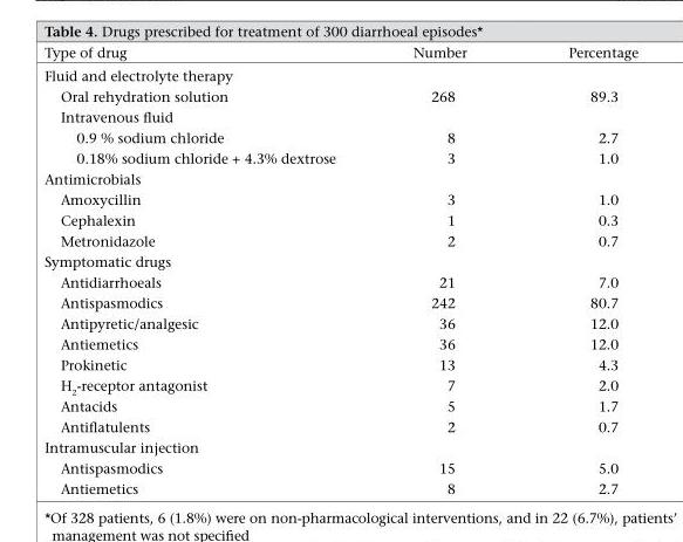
<table><thead><tr><td>Type of drug</td><td>Number</td><td>Percentage</td></tr></thead><tbody><tr><td colspan="3">Fluid and electrolyte therapy</td></tr><tr><td>Oral rehydration solution</td><td>268</td><td>89.3</td></tr><tr><td colspan="3">Intravenous fluid</td></tr><tr><td>0.9 % sodium chloride</td><td>8</td><td>2.7</td></tr><tr><td>0.18% sodium chloride + 4.3% dextrose</td><td>3</td><td>1.0</td></tr><tr><td colspan="3">Antimicrobials</td></tr><tr><td>Amoxycillin</td><td>3</td><td>1.0</td></tr><tr><td>Cephalexin</td><td>1</td><td>0.3</td></tr><tr><td>Metronidazole</td><td>2</td><td>0.7</td></tr><tr><td colspan="3">Symptomatic drugs</td></tr><tr><td>Antidiarrhoeals</td><td>21</td><td>7.0</td></tr><tr><td>Antispasmodics</td><td>242</td><td>80.7</td></tr><tr><td>Antipyretic/analgesic</td><td>36</td><td>12.0</td></tr><tr><td>Antiemetics</td><td>36</td><td>12.0</td></tr><tr><td>Prokinetic</td><td>13</td><td>4.3</td></tr><tr><td>H<sub>2</sub>-receptor antagonist</td><td>7</td><td>2.0</td></tr><tr><td>Antacids</td><td>5</td><td>1.7</td></tr><tr><td>Antiflatulents</td><td>2</td><td>0.7</td></tr><tr><td colspan="3">Intramuscular injection</td></tr><tr><td>Antispasmodics</td><td>15</td><td>5.0</td></tr><tr><td>Antiemetics</td><td>8</td><td>2.7</td></tr></tbody></table>